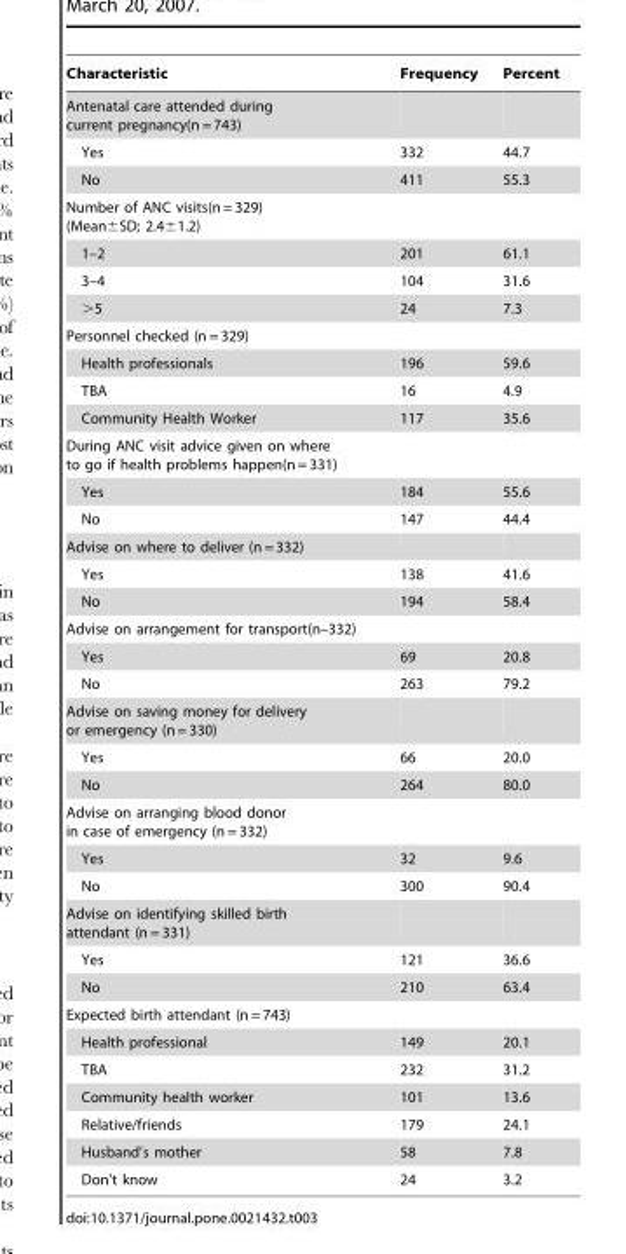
<table><thead><tr><td>Characteristic</td><td>Frequency</td><td>Percent</td></tr></thead><tbody><tr><td colspan="3">Antenatal care attended during current pregnancy(n = 743)</td></tr><tr><td>Yes</td><td>332</td><td>44.7</td></tr><tr><td>No</td><td>411</td><td>55.3</td></tr><tr><td colspan="3">Number of ANC visits(n = 329) (Mean±SD; 2.4±1.2)</td></tr><tr><td>1–2</td><td>201</td><td>61.1</td></tr><tr><td>3–4</td><td>104</td><td>31.6</td></tr><tr><td>&gt;5</td><td>24</td><td>7.3</td></tr><tr><td colspan="3">Personnel checked (n = 329)</td></tr><tr><td>Health professionals</td><td>196</td><td>59.6</td></tr><tr><td>TBA</td><td>16</td><td>4.9</td></tr><tr><td>Community Health Worker</td><td>117</td><td>35.6</td></tr><tr><td colspan="3">During ANC visit advice given on where to go if health problems happen(n = 331)</td></tr><tr><td>Yes</td><td>184</td><td>55.6</td></tr><tr><td>No</td><td>147</td><td>44.4</td></tr><tr><td colspan="3">Advise on where to deliver (n = 332)</td></tr><tr><td>Yes</td><td>138</td><td>41.6</td></tr><tr><td>No</td><td>194</td><td>58.4</td></tr><tr><td colspan="3">Advise on arrangement for transport(n–332)</td></tr><tr><td>Yes</td><td>69</td><td>20.8</td></tr><tr><td>No</td><td>263</td><td>79.2</td></tr><tr><td colspan="3">Advise on saving money for delivery or emergency (n = 330)</td></tr><tr><td>Yes</td><td>66</td><td>20.0</td></tr><tr><td>No</td><td>264</td><td>80.0</td></tr><tr><td colspan="3">Advise on arranging blood donor in case of emergency (n = 332)</td></tr><tr><td>Yes</td><td>32</td><td>9.6</td></tr><tr><td>No</td><td>300</td><td>90.4</td></tr><tr><td colspan="3">Advise on identifying skilled birth attendant (n = 331)</td></tr><tr><td>Yes</td><td>121</td><td>36.6</td></tr><tr><td>No</td><td>210</td><td>63.4</td></tr><tr><td colspan="3">Expected birth attendant (n = 743)</td></tr><tr><td>Health professional</td><td>149</td><td>20.1</td></tr><tr><td>TBA</td><td>232</td><td>31.2</td></tr><tr><td>Community health worker</td><td>101</td><td>13.6</td></tr><tr><td>Relative/friends</td><td>179</td><td>24.1</td></tr><tr><td>Husband’s mother</td><td>58</td><td>7.8</td></tr><tr><td>Don’t know</td><td>24</td><td>3.2</td></tr></tbody></table>